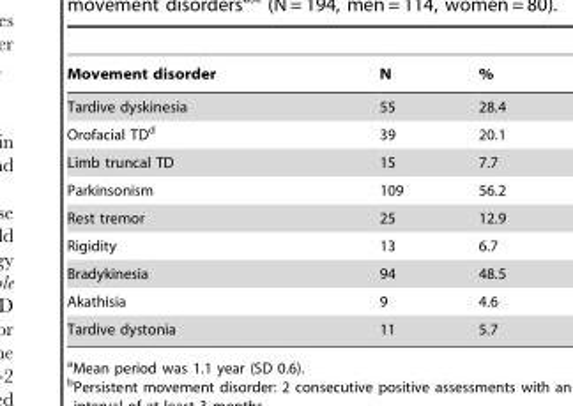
<table><thead><tr><td>Movement disorder</td><td>N</td><td>%</td></tr></thead><tbody><tr><td>Tardive dyskinesia</td><td>55</td><td>28.4</td></tr><tr><td>Orofacial TD<sup>d</sup></td><td>39</td><td>20.1</td></tr><tr><td>Limb truncal TD</td><td>15</td><td>7.7</td></tr><tr><td>Parkinsonism</td><td>109</td><td>56.2</td></tr><tr><td>Rest tremor</td><td>25</td><td>12.9</td></tr><tr><td>Rigidity</td><td>13</td><td>6.7</td></tr><tr><td>Bradykinesia</td><td>94</td><td>48.5</td></tr><tr><td>Akathisia</td><td>9</td><td>4.6</td></tr><tr><td>Tardive dystonia</td><td>11</td><td>5.7</td></tr></tbody></table>